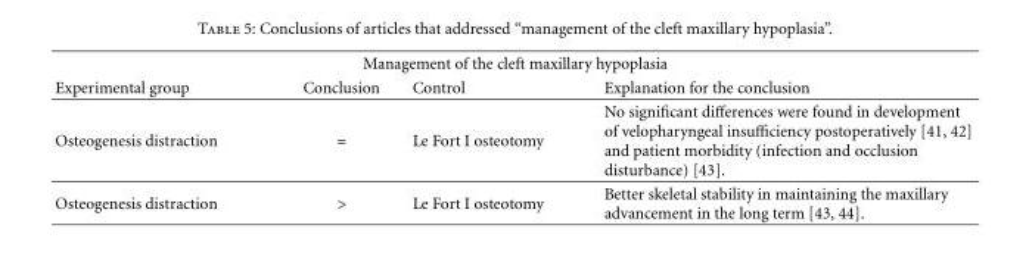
<table><thead><tr><td colspan="4">Management of the cleft maxillary hypoplasia</td></tr><tr><td>Experimental group</td><td>Conclusion</td><td>Control</td><td>Explanation for the conclusion</td></tr></thead><tbody><tr><td>Osteogenesis distraction</td><td>=</td><td>Le Fort I osteotomy</td><td>No significant differences were found in development of velopharyngeal insufficiency postoperatively [41, 42] and patient morbidity (infection and occlusion disturbance) [43].</td></tr><tr><td>Osteogenesis distraction</td><td>&gt;</td><td>Le Fort I osteotomy</td><td>Better skeletal stability in maintaining the maxillary advancement in the long term [43, 44].</td></tr></tbody></table>